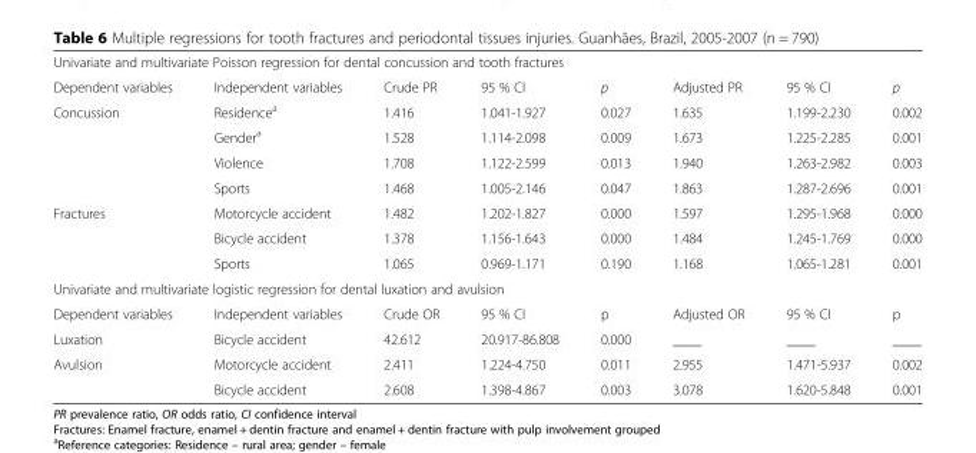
<table><tbody><tr><td colspan="8">Univariate and multivariate Poisson regression for dental concussion and tooth fractures</td></tr><tr><td>Dependent variables</td><td>Independent variables</td><td>Crude PR</td><td>95 % CI</td><td>p</td><td>Adjusted PR</td><td>95 % CI</td><td>p</td></tr><tr><td rowspan="4">Concussion</td><td>Residence<sup>a</sup></td><td>1.416</td><td>1.041-1.927</td><td>0.027</td><td>1.635</td><td>1.199-2.230</td><td>0.002</td></tr><tr><td>Gender<sup>a</sup></td><td>1.528</td><td>1.114-2.098</td><td>0.009</td><td>1.673</td><td>1.225-2.285</td><td>0.001</td></tr><tr><td>Violence</td><td>1.708</td><td>1.122-2.599</td><td>0.013</td><td>1.940</td><td>1.263-2.982</td><td>0.003</td></tr><tr><td>Sports</td><td>1.468</td><td>1.005-2.146</td><td>0.047</td><td>1.863</td><td>1.287-2.696</td><td>0.001</td></tr><tr><td rowspan="3">Fractures</td><td>Motorcycle accident</td><td>1.482</td><td>1.202-1.827</td><td>0.000</td><td>1.597</td><td>1.295-1.968</td><td>0.000</td></tr><tr><td>Bicycle accident</td><td>1.378</td><td>1.156-1.643</td><td>0.000</td><td>1.484</td><td>1.245-1.769</td><td>0.000</td></tr><tr><td>Sports</td><td>1.065</td><td>0.969-1.171</td><td>0.190</td><td>1.168</td><td>1.065-1.281</td><td>0.001</td></tr><tr><td colspan="8">Univariate and multivariate logistic regression for dental luxation and avulsion</td></tr><tr><td>Dependent variables</td><td>Independent variables</td><td>Crude OR</td><td>95 % CI</td><td>p</td><td>Adjusted OR</td><td>95 % CI</td><td>p</td></tr><tr><td>Luxation</td><td>Bicycle accident</td><td>42.612</td><td>20.917-86.808</td><td>0.000</td><td>____</td><td>____</td><td>____</td></tr><tr><td rowspan="2">Avulsion</td><td>Motorcycle accident</td><td>2.411</td><td>1.224-4.750</td><td>0.011</td><td>2.955</td><td>1.471-5.937</td><td>0.002</td></tr><tr><td>Bicycle accident</td><td>2.608</td><td>1.398-4.867</td><td>0.003</td><td>3.078</td><td>1.620-5.848</td><td>0.001</td></tr></tbody></table>